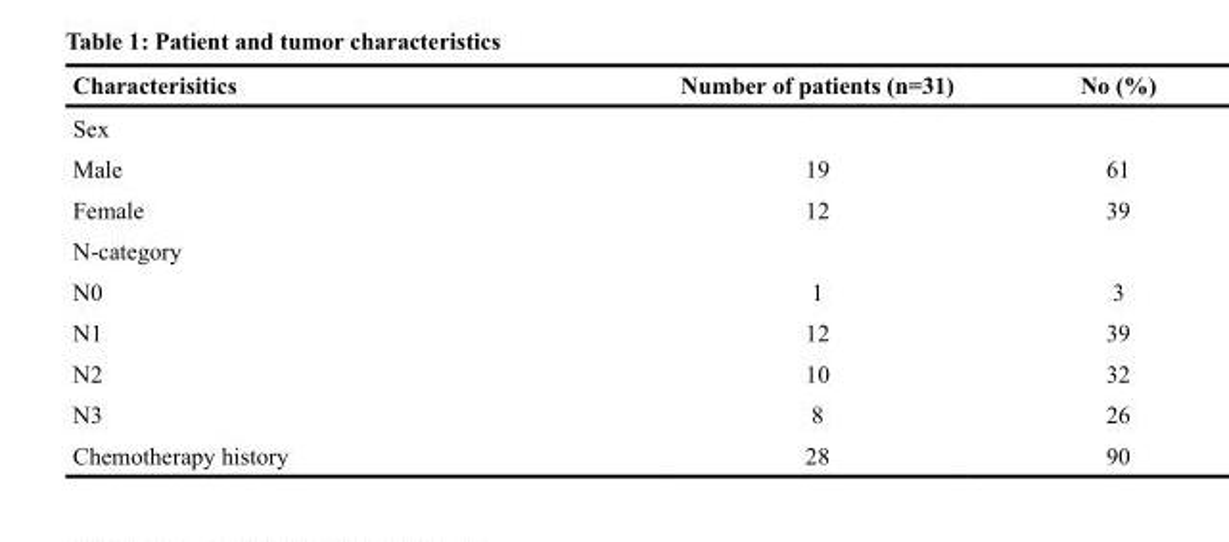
<table><thead><tr><td>Characterisitics</td><td>Number of patients (n=31)</td><td>No (%)</td></tr></thead><tbody><tr><td colspan="3">Sex</td></tr><tr><td>Male</td><td>19</td><td>61</td></tr><tr><td>Female</td><td>12</td><td>39</td></tr><tr><td colspan="3">N-category</td></tr><tr><td>N0</td><td>1</td><td>3</td></tr><tr><td>N1</td><td>12</td><td>39</td></tr><tr><td>N2</td><td>10</td><td>32</td></tr><tr><td>N3</td><td>8</td><td>26</td></tr><tr><td>Chemotherapy history</td><td>28</td><td>90</td></tr></tbody></table>